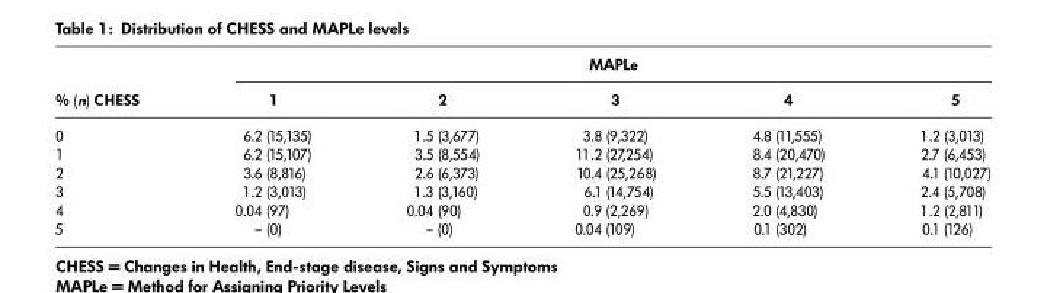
<table><thead><tr><td rowspan="2">% (n) CHESS</td><td colspan="5">MAPLe</td></tr><tr><td>1</td><td>2</td><td>3</td><td>4</td><td>5</td></tr></thead><tbody><tr><td>0</td><td>6.2 (15,135)</td><td>1.5 (3,677)</td><td>3.8 (9,322)</td><td>4.8 (11,555)</td><td>1.2 (3,013)</td></tr><tr><td>1</td><td>6.2 (15,107)</td><td>3.5 (8,554)</td><td>11.2 (27,254)</td><td>8.4 (20,470)</td><td>2.7 (6,453)</td></tr><tr><td>2</td><td>3.6 (8,816)</td><td>2.6 (6,373)</td><td>10.4 (25,268)</td><td>8.7 (21,227)</td><td>4.1 (10,027)</td></tr><tr><td>3</td><td>1.2 (3,013)</td><td>1.3 (3,160)</td><td>6.1 (14,754)</td><td>5.5 (13,403)</td><td>2.4 (5,708)</td></tr><tr><td>4</td><td>0.04 (97)</td><td>0.04 (90)</td><td>0.9 (2,269)</td><td>2.0 (4,830)</td><td>1.2 (2,811)</td></tr><tr><td>5</td><td>– (0)</td><td>– (0)</td><td>0.04 (109)</td><td>0.1 (302)</td><td>0.1 (126)</td></tr></tbody></table>